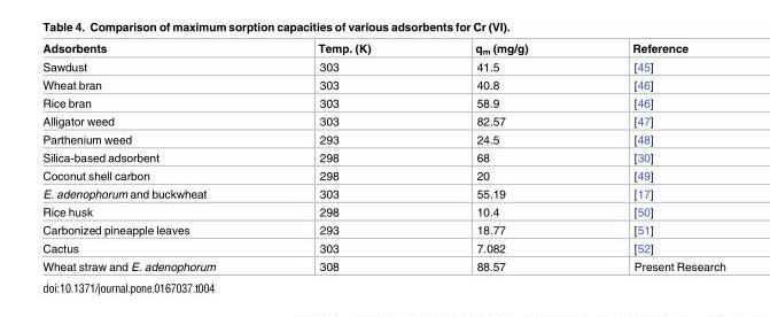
<table><thead><tr><td>Adsorbents</td><td>Temp. (K)</td><td>q<sub>m</sub> (mg/g)</td><td>Reference</td></tr></thead><tbody><tr><td>Sawdust</td><td>303</td><td>41.5</td><td>[45]</td></tr><tr><td>Wheat bran</td><td>303</td><td>40.8</td><td>[46]</td></tr><tr><td>Rice bran</td><td>303</td><td>58.9</td><td>[46]</td></tr><tr><td>Alligator weed</td><td>303</td><td>82.57</td><td>[47]</td></tr><tr><td>Parthenium weed</td><td>293</td><td>24.5</td><td>[48]</td></tr><tr><td>Silica-based adsorbent</td><td>298</td><td>68</td><td>[30]</td></tr><tr><td>Coconut shell carbon</td><td>298</td><td>20</td><td>[49]</td></tr><tr><td>E. adenophorum and buckwheat</td><td>303</td><td>55.19</td><td>[17]</td></tr><tr><td>Rice husk</td><td>298</td><td>10.4</td><td>[50]</td></tr><tr><td>Carbonized pineapple leaves</td><td>293</td><td>18.77</td><td>[51]</td></tr><tr><td>Cactus</td><td>303</td><td>7.082</td><td>[52]</td></tr><tr><td>Wheat straw and E. adenophorum</td><td>308</td><td>88.57</td><td>Present Research</td></tr></tbody></table>